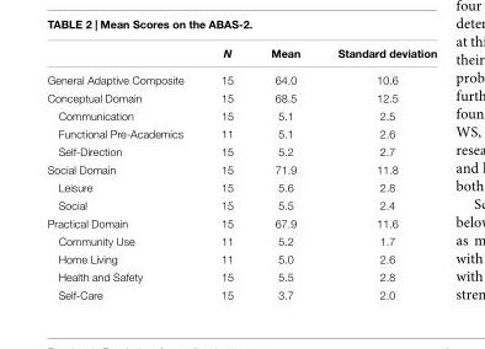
<table><thead><tr><td></td><td>N</td><td>Mean</td><td>Standard deviation</td></tr></thead><tbody><tr><td>General Adaptive Composite</td><td>15</td><td>64.0</td><td>10.6</td></tr><tr><td>Conceptual Domain</td><td>15</td><td>68.5</td><td>12.5</td></tr><tr><td>Communication</td><td>15</td><td>5.1</td><td>2.5</td></tr><tr><td>Functional Pre-Academics</td><td>11</td><td>5.1</td><td>2.6</td></tr><tr><td>Self-Direction</td><td>15</td><td>5.2</td><td>2.7</td></tr><tr><td>Social Domain</td><td>15</td><td>71.9</td><td>11.8</td></tr><tr><td>Leisure</td><td>15</td><td>5.6</td><td>2.8</td></tr><tr><td>Social</td><td>15</td><td>5.5</td><td>2.4</td></tr><tr><td>Practical Domain</td><td>15</td><td>67.9</td><td>11.6</td></tr><tr><td>Community Use</td><td>11</td><td>5.2</td><td>1.7</td></tr><tr><td>Home Living</td><td>11</td><td>5.0</td><td>2.6</td></tr><tr><td>Health and Safety</td><td>15</td><td>5.5</td><td>2.8</td></tr><tr><td>Self-Care</td><td>15</td><td>3.7</td><td>2.0</td></tr></tbody></table>